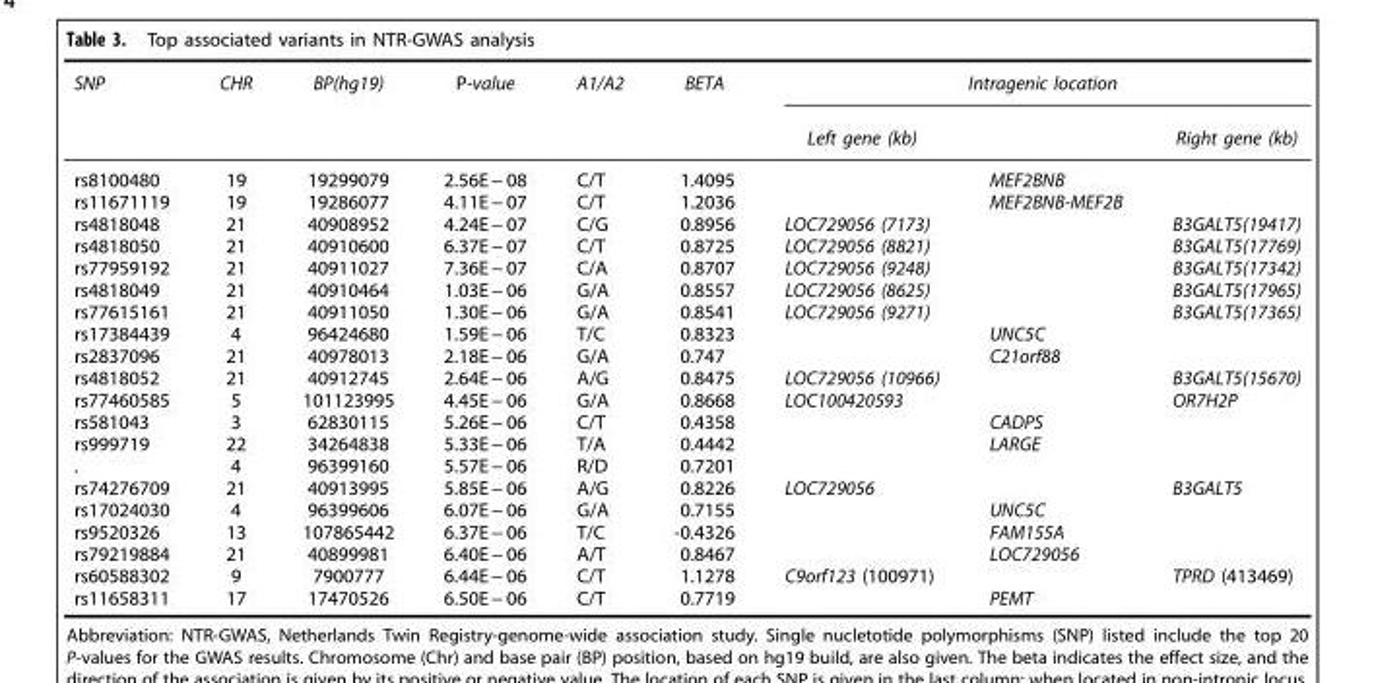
<table><thead><tr><td rowspan="2">SNP</td><td rowspan="2">CHR</td><td rowspan="2">BP(hg19)</td><td rowspan="2">P-value</td><td rowspan="2">A1/A2</td><td rowspan="2">BETA</td><td colspan="3">Intragenic location</td></tr><tr><td>Left gene (kb)</td><td></td><td>Right gene (kb)</td></tr></thead><tbody><tr><td>rs8100480</td><td>19</td><td>19299079</td><td>2.56E − 08</td><td>C/T</td><td>1.4095</td><td></td><td>MEF2BNB</td><td></td></tr><tr><td>rs11671119</td><td>19</td><td>19286077</td><td>4.11E − 07</td><td>C/T</td><td>1.2036</td><td></td><td>MEF2BNB-MEF2B</td><td></td></tr><tr><td>rs4818048</td><td>21</td><td>40908952</td><td>4.24E − 07</td><td>C/G</td><td>0.8956</td><td>LOC729056 (7173)</td><td></td><td>B3GALT5(19417)</td></tr><tr><td>rs4818050</td><td>21</td><td>40910600</td><td>6.37E − 07</td><td>C/T</td><td>0.8725</td><td>LOC729056 (8821)</td><td></td><td>B3GALT5(17769)</td></tr><tr><td>rs77959192</td><td>21</td><td>40911027</td><td>7.36E − 07</td><td>C/A</td><td>0.8707</td><td>LOC729056 (9248)</td><td></td><td>B3GALT5(17342)</td></tr><tr><td>rs4818049</td><td>21</td><td>40910464</td><td>1.03E − 06</td><td>G/A</td><td>0.8557</td><td>LOC729056 (8625)</td><td></td><td>B3GALT5(17965)</td></tr><tr><td>rs77615161</td><td>21</td><td>40911050</td><td>1.30E − 06</td><td>G/A</td><td>0.8541</td><td>LOC729056 (9271)</td><td></td><td>B3GALT5(17365)</td></tr><tr><td>rs17384439</td><td>4</td><td>96424680</td><td>1.59E − 06</td><td>T/C</td><td>0.8323</td><td></td><td>UNC5C</td><td></td></tr><tr><td>rs2837096</td><td>21</td><td>40978013</td><td>2.18E − 06</td><td>G/A</td><td>0.747</td><td></td><td>C21orf88</td><td></td></tr><tr><td>rs4818052</td><td>21</td><td>40912745</td><td>2.64E − 06</td><td>A/G</td><td>0.8475</td><td>LOC729056 (10966)</td><td></td><td>B3GALT5(15670)</td></tr><tr><td>rs77460585</td><td>5</td><td>101123995</td><td>4.45E − 06</td><td>G/A</td><td>0.8668</td><td>LOC100420593</td><td></td><td>OR7H2P</td></tr><tr><td>rs581043</td><td>3</td><td>62830115</td><td>5.26E − 06</td><td>C/T</td><td>0.4358</td><td></td><td>CADPS</td><td></td></tr><tr><td>rs999719</td><td>22</td><td>34264838</td><td>5.33E − 06</td><td>T/A</td><td>0.4442</td><td></td><td>LARGE</td><td></td></tr><tr><td>.</td><td>4</td><td>96399160</td><td>5.57E − 06</td><td>R/D</td><td>0.7201</td><td></td><td></td><td></td></tr><tr><td>rs74276709</td><td>21</td><td>40913995</td><td>5.85E − 06</td><td>A/G</td><td>0.8226</td><td>LOC729056</td><td></td><td>B3GALT5</td></tr><tr><td>rs17024030</td><td>4</td><td>96399606</td><td>6.07E − 06</td><td>G/A</td><td>0.7155</td><td></td><td>UNC5C</td><td></td></tr><tr><td>rs9520326</td><td>13</td><td>107865442</td><td>6.37E − 06</td><td>T/C</td><td>-0.4326</td><td></td><td>FAM155A</td><td></td></tr><tr><td>rs79219884</td><td>21</td><td>40899981</td><td>6.40E − 06</td><td>A/T</td><td>0.8467</td><td></td><td>LOC729056</td><td></td></tr><tr><td>rs60588302</td><td>9</td><td>7900777</td><td>6.44E − 06</td><td>C/T</td><td>1.1278</td><td>C9orf123 (100971)</td><td></td><td>TPRD (413469)</td></tr><tr><td>rs11658311</td><td>17</td><td>17470526</td><td>6.50E − 06</td><td>C/T</td><td>0.7719</td><td></td><td>PEMT</td><td></td></tr></tbody></table>